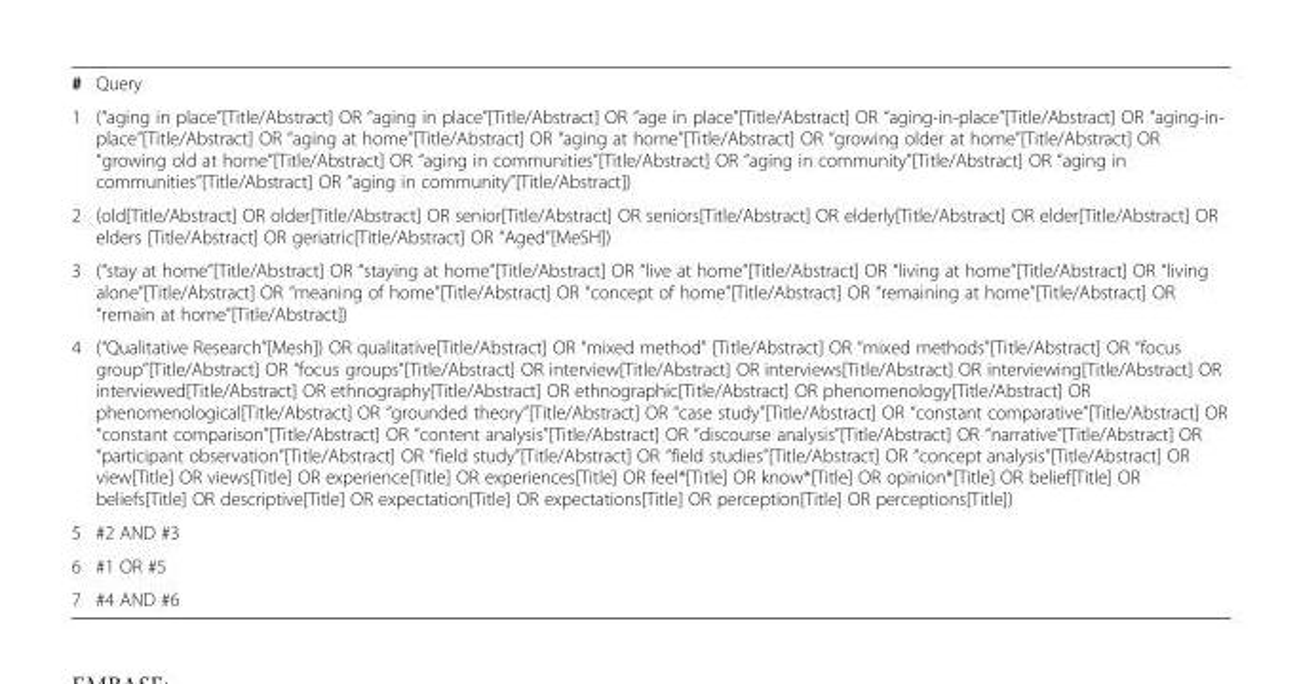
<table><tbody><tr><td>#</td><td>Query</td></tr><tr><td>1</td><td>(“aging in place”[Title/Abstract] OR “aging in place”[Title/Abstract] OR “age in place”[Title/Abstract] OR “aging-in-place”[Title/Abstract] OR “aging-in- place”[Title/Abstract] OR “aging at home”[Title/Abstract] OR “aging at home”[Title/Abstract] OR “growing older at home”[Title/Abstract] OR “growing old at home”[Title/Abstract] OR “aging in communities”[Title/Abstract] OR “aging in community”[Title/Abstract] OR “aging in communities”[Title/Abstract] OR “aging in community”[Title/Abstract])</td></tr><tr><td>2</td><td>(old[Title/Abstract] OR older[Title/Abstract] OR senior[Title/Abstract] OR seniors[Title/Abstract] OR elderly[Title/Abstract] OR elder[Title/Abstract] OR elders [Title/Abstract] OR geriatric[Title/Abstract] OR “Aged”[MeSH])</td></tr><tr><td>3</td><td>(“stay at home”[Title/Abstract] OR “staying at home”[Title/Abstract] OR “live at home”[Title/Abstract] OR “living at home”[Title/Abstract] OR “living alone”[Title/Abstract] OR “meaning of home”[Title/Abstract] OR “concept of home”[Title/Abstract] OR “remaining at home”[Title/Abstract] OR “remain at home”[Title/Abstract])</td></tr><tr><td>4</td><td>(“Qualitative Research”[Mesh]) OR qualitative[Title/Abstract] OR “mixed method” [Title/Abstract] OR “mixed methods”[Title/Abstract] OR “focus group”[Title/Abstract] OR “focus groups”[Title/Abstract] OR interview[Title/Abstract] OR interviews[Title/Abstract] OR interviewing[Title/Abstract] OR interviewed[Title/Abstract] OR ethnography[Title/Abstract] OR ethnographic[Title/Abstract] OR phenomenology[Title/Abstract] OR phenomenological[Title/Abstract] OR “grounded theory”[Title/Abstract] OR “case study”[Title/Abstract] OR “constant comparative”[Title/Abstract] OR “constant comparison”[Title/Abstract] OR “content analysis”[Title/Abstract] OR “discourse analysis”[Title/Abstract] OR “narrative”[Title/Abstract] OR “participant observation”[Title/Abstract] OR “field study”[Title/Abstract] OR “field studies”[Title/Abstract] OR “concept analysis”[Title/Abstract] OR view[Title] OR views[Title] OR experience[Title] OR experiences[Title] OR feel*[Title] OR know*[Title] OR opinion*[Title] OR belief[Title] OR beliefs[Title] OR descriptive[Title] OR expectation[Title] OR expectations[Title] OR perception[Title] OR perceptions[Title])</td></tr><tr><td>5</td><td>#2 AND #3</td></tr><tr><td>6</td><td>#1 OR #5</td></tr><tr><td>7</td><td>#4 AND #6</td></tr></tbody></table>